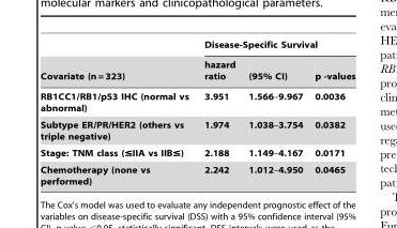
<table><thead><tr><td rowspan="2">Covariate (n = 323)</td><td colspan="3">Disease-Specific Survival</td></tr><tr><td>hazard ratio</td><td>(95% CI)</td><td>p -values</td></tr></thead><tbody><tr><td>RB1CC1/RB1/p53 IHC (normal vs abnormal)</td><td>3.951</td><td>1.566–9.967</td><td>0.0036</td></tr><tr><td>Subtype ER/PR/HER2 (others vs triple negative)</td><td>1.974</td><td>1.038–3.754</td><td>0.0382</td></tr><tr><td>Stage: TNM class (≤IIA vs IIB≤)</td><td>2.188</td><td>1.149–4.167</td><td>0.0171</td></tr><tr><td>Chemotherapy (none vs performed)</td><td>2.242</td><td>1.012–4.950</td><td>0.0465</td></tr></tbody></table>